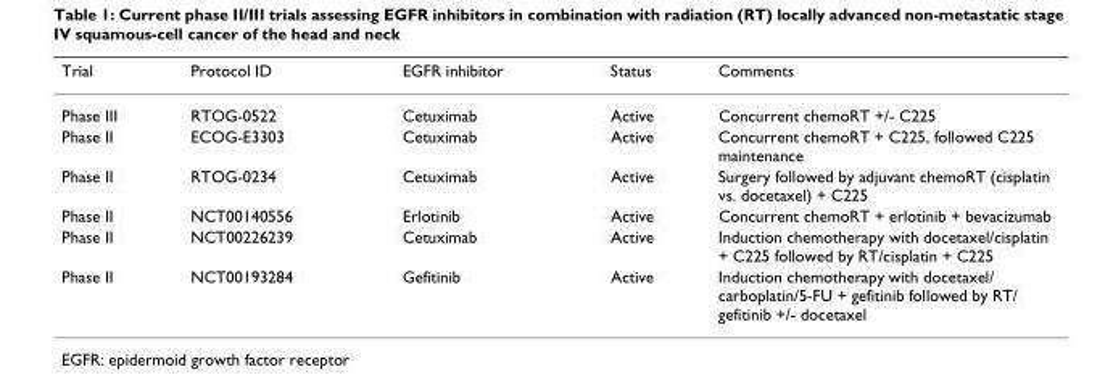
<table><thead><tr><td>Trial</td><td>Protocol ID</td><td>EGFR inhibitor</td><td>Status</td><td>Comments</td></tr></thead><tbody><tr><td>Phase III</td><td>RTOG-0522</td><td>Cetuximab</td><td>Active</td><td>Concurrent chemoRT +/- C225</td></tr><tr><td>Phase II</td><td>ECOG-E3303</td><td>Cetuximab</td><td>Active</td><td>Concurrent chemoRT + C225, followed C225 maintenance</td></tr><tr><td>Phase II</td><td>RTOG-0234</td><td>Cetuximab</td><td>Active</td><td>Surgery followed by adjuvant chemoRT (cisplatin vs. docetaxel) + C225</td></tr><tr><td>Phase II</td><td>NCT00140556</td><td>Erlotinib</td><td>Active</td><td>Concurrent chemoRT + erlotinib + bevacizumab</td></tr><tr><td>Phase II</td><td>NCT00226239</td><td>Cetuximab</td><td>Active</td><td>Induction chemotherapy with docetaxel/cisplatin + C225 followed by RT/cisplatin + C225</td></tr><tr><td>Phase II</td><td>NCT00193284</td><td>Gefitinib</td><td>Active</td><td>Induction chemotherapy with docetaxel/ carboplatin/5-FU + gefitinib followed by RT/ gefitinib +/- docetaxel</td></tr></tbody></table>